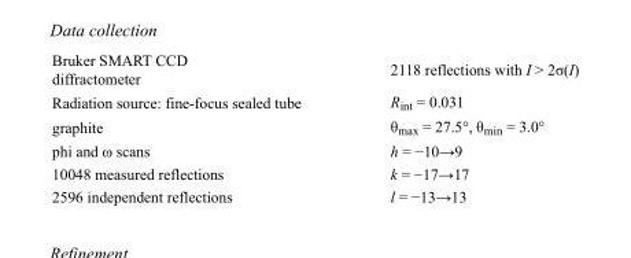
<table><tbody><tr><td>Bruker SMART CCD diffractometer</td><td>2118 reflections with I &gt; 2σ(I)</td></tr><tr><td>Radiation source: fine-focus sealed tube</td><td>R<sub>int</sub> = 0.031</td></tr><tr><td>graphite</td><td>θ<sub>max</sub> = 27.5°, θ<sub>min</sub> = 3.0°</td></tr><tr><td>phi and ω scans</td><td>h = −10→9</td></tr><tr><td>10048 measured reflections</td><td>k = −17→17</td></tr><tr><td>2596 independent reflections</td><td>l = −13→13</td></tr></tbody></table>